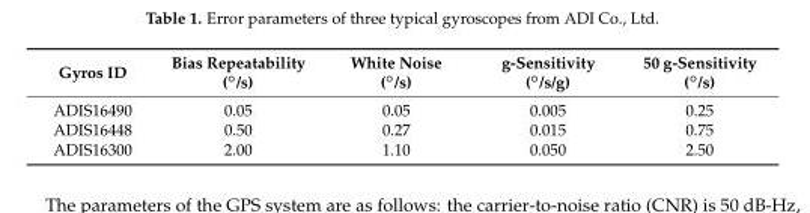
<table><thead><tr><td>Gyros ID</td><td>Bias Repeatability (◦/s)</td><td>White Noise (◦/s)</td><td>g-Sensitivity (◦/s/g)</td><td>50 g-Sensitivity (◦/s)</td></tr></thead><tbody><tr><td>ADIS16490</td><td>0.05</td><td>0.05</td><td>0.005</td><td>0.25</td></tr><tr><td>ADIS16448</td><td>0.50</td><td>0.27</td><td>0.015</td><td>0.75</td></tr><tr><td>ADIS16300</td><td>2.00</td><td>1.10</td><td>0.050</td><td>2.50</td></tr></tbody></table>